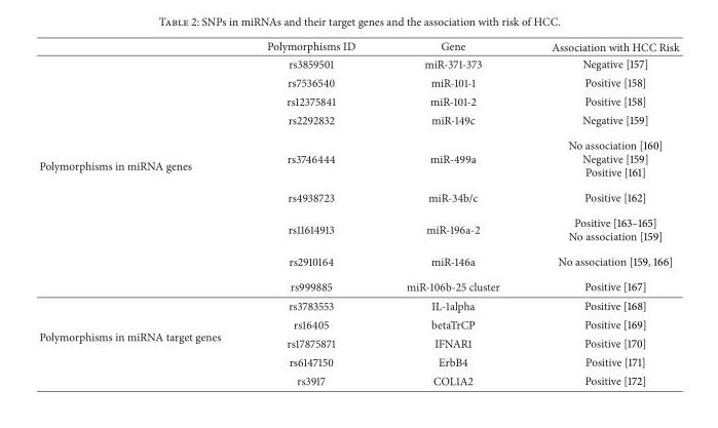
<table><thead><tr><td></td><td>Polymorphisms ID</td><td>Gene</td><td>Association with HCC Risk</td></tr></thead><tbody><tr><td rowspan="9">Polymorphisms in miRNA genes</td><td>rs3859501</td><td>miR-371-373</td><td>Negative [157]</td></tr><tr><td>rs7536540</td><td>miR-101-1</td><td>Positive [158]</td></tr><tr><td>rs12375841</td><td>miR-101-2</td><td>Positive [158]</td></tr><tr><td>rs2292832</td><td>miR-149c</td><td>Negative [159]</td></tr><tr><td>rs3746444</td><td>miR-499a</td><td>No association [160] Negative [159] Positive [161]</td></tr><tr><td>rs4938723</td><td>miR-34b/c</td><td>Positive [162]</td></tr><tr><td>rs11614913</td><td>miR-196a-2</td><td>Positive [163–165] No association [159]</td></tr><tr><td>rs2910164</td><td>miR-146a</td><td>No association [159, 166]</td></tr><tr><td>rs999885</td><td>miR-106b-25 cluster</td><td>Positive [167]</td></tr><tr><td rowspan="5">Polymorphisms in miRNA target genes</td><td>rs3783553</td><td>IL-1alpha</td><td>Positive [168]</td></tr><tr><td>rs16405</td><td>betaTrCP</td><td>Positive [169]</td></tr><tr><td>rs17875871</td><td>IFNAR1</td><td>Positive [170]</td></tr><tr><td>rs6147150</td><td>ErbB4</td><td>Positive [171]</td></tr><tr><td>rs3917</td><td>COL1A2</td><td>Positive [172]</td></tr></tbody></table>